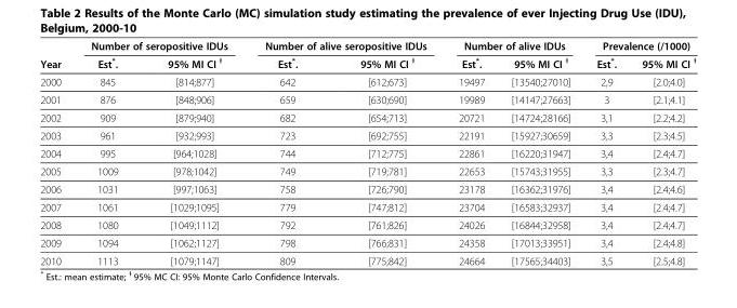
<table><thead><tr><td rowspan="2">Year</td><td colspan="2">Number of seropositive IDUs</td><td colspan="2">Number of alive seropositive IDUs</td><td colspan="2">Number of alive IDUs</td><td colspan="2">Prevalence (/1000)</td></tr><tr><td>Est*.</td><td>95% MI CI <sup>Ɨ</sup></td><td>Est*.</td><td>95% MI CI <sup>Ɨ</sup></td><td>Est*.</td><td>95% MI CI <sup>Ɨ</sup></td><td>Est*.</td><td>95% MI CI <sup>Ɨ</sup></td></tr></thead><tbody><tr><td>2000</td><td>845</td><td>[814;877]</td><td>642</td><td>[612;673]</td><td>19497</td><td>[13540;27010]</td><td>2,9</td><td>[2.0;4.0]</td></tr><tr><td>2001</td><td>876</td><td>[848;906]</td><td>659</td><td>[630;690]</td><td>19989</td><td>[14147;27663]</td><td>3</td><td>[2.1;4.1]</td></tr><tr><td>2002</td><td>909</td><td>[879;940]</td><td>682</td><td>[654;713]</td><td>20721</td><td>[14724;28166]</td><td>3,1</td><td>[2.2;4.2]</td></tr><tr><td>2003</td><td>961</td><td>[932;993]</td><td>723</td><td>[692;755]</td><td>22191</td><td>[15927;30659]</td><td>3,3</td><td>[2.3;4.5]</td></tr><tr><td>2004</td><td>995</td><td>[964;1028]</td><td>744</td><td>[712;775]</td><td>22861</td><td>[16220;31947]</td><td>3,4</td><td>[2.4;4.7]</td></tr><tr><td>2005</td><td>1009</td><td>[978;1042]</td><td>749</td><td>[719;781]</td><td>22653</td><td>[15743;31955]</td><td>3,3</td><td>[2.3;4.7]</td></tr><tr><td>2006</td><td>1031</td><td>[997;1063]</td><td>758</td><td>[726;790]</td><td>23178</td><td>[16362;31976]</td><td>3,4</td><td>[2.4;4.6]</td></tr><tr><td>2007</td><td>1061</td><td>[1029;1095]</td><td>779</td><td>[747;812]</td><td>23704</td><td>[16583;32937]</td><td>3,4</td><td>[2.4;4.7]</td></tr><tr><td>2008</td><td>1080</td><td>[1049;1112]</td><td>792</td><td>[761;826]</td><td>24026</td><td>[16844;32958]</td><td>3,4</td><td>[2.4;4.7]</td></tr><tr><td>2009</td><td>1094</td><td>[1062;1127]</td><td>798</td><td>[766;831]</td><td>24358</td><td>[17013;33951]</td><td>3,4</td><td>[2.4;4.8]</td></tr><tr><td>2010</td><td>1113</td><td>[1079;1147]</td><td>809</td><td>[775;842]</td><td>24664</td><td>[17565;34403]</td><td>3,5</td><td>[2.5;4.8]</td></tr></tbody></table>